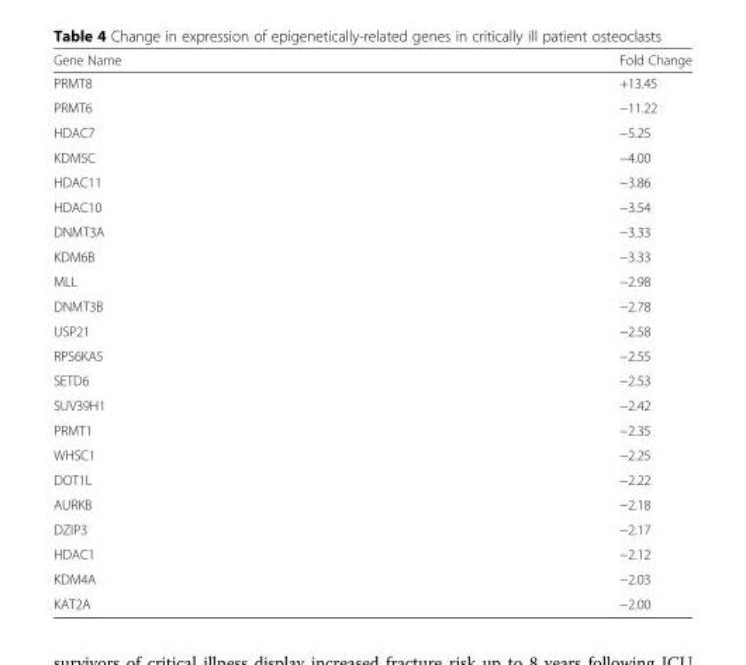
<table><thead><tr><td>Gene Name</td><td>Fold Change</td></tr></thead><tbody><tr><td>PRMT8</td><td>+13.45</td></tr><tr><td>PRMT6</td><td>−11.22</td></tr><tr><td>HDAC7</td><td>−5.25</td></tr><tr><td>KDM5C</td><td>−4.00</td></tr><tr><td>HDAC11</td><td>−3.86</td></tr><tr><td>HDAC10</td><td>−3.54</td></tr><tr><td>DNMT3A</td><td>−3.33</td></tr><tr><td>KDM6B</td><td>−3.33</td></tr><tr><td>MLL</td><td>−2.98</td></tr><tr><td>DNMT3B</td><td>−2.78</td></tr><tr><td>USP21</td><td>−2.58</td></tr><tr><td>RPS6KA5</td><td>−2.55</td></tr><tr><td>SETD6</td><td>−2.53</td></tr><tr><td>SUV39H1</td><td>−2.42</td></tr><tr><td>PRMT1</td><td>−2.35</td></tr><tr><td>WHSC1</td><td>−2.25</td></tr><tr><td>DOT1L</td><td>−2.22</td></tr><tr><td>AURKB</td><td>−2.18</td></tr><tr><td>DZIP3</td><td>−2.17</td></tr><tr><td>HDAC1</td><td>−2.12</td></tr><tr><td>KDM4A</td><td>−2.03</td></tr><tr><td>KAT2A</td><td>−2.00</td></tr></tbody></table>